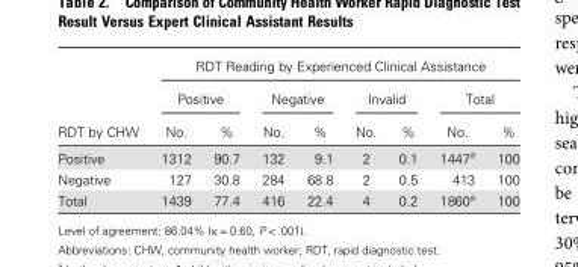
<table><thead><tr><td rowspan="3">RDT by CHW</td><td colspan="8">RDT Reading by Experienced Clinical Assistance</td></tr><tr><td colspan="2">Positive</td><td colspan="2">Negative</td><td colspan="2">Invalid</td><td colspan="2">Total</td></tr><tr><td>No.</td><td>%</td><td>No.</td><td>%</td><td>No.</td><td>%</td><td>No.</td><td>%</td></tr></thead><tbody><tr><td>Positive</td><td>1312</td><td>90.7</td><td>132</td><td>9.1</td><td>2</td><td>0.1</td><td>1447<sup>a</sup></td><td>100</td></tr><tr><td>Negative</td><td>127</td><td>30.8</td><td>284</td><td>68.8</td><td>2</td><td>0.5</td><td>413</td><td>100</td></tr><tr><td>Total</td><td>1439</td><td>77.4</td><td>416</td><td>22.4</td><td>4</td><td>0.2</td><td>1860<sup>a</sup></td><td>100</td></tr></tbody></table>